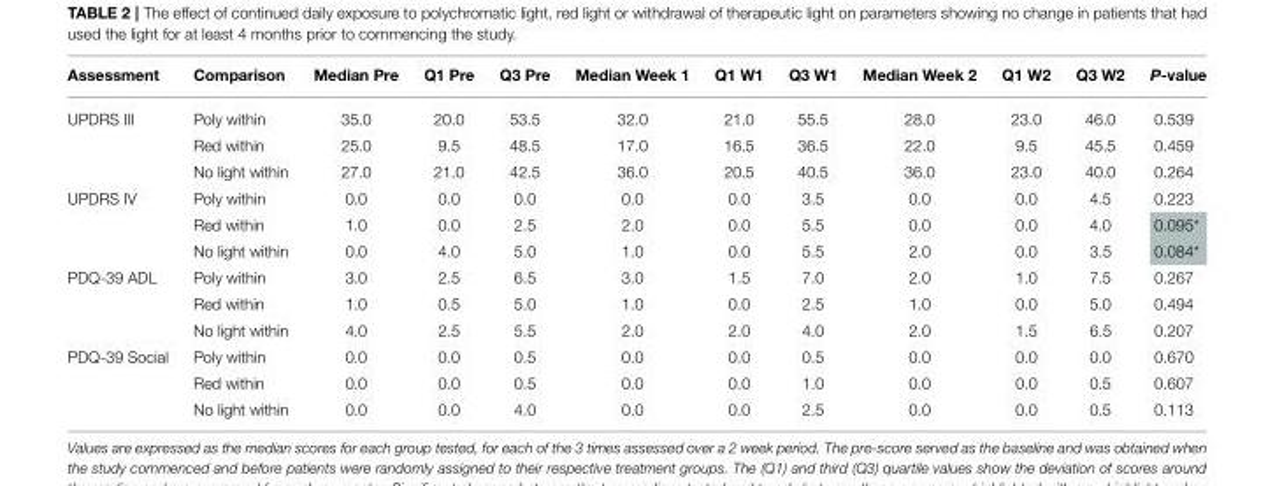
<table><thead><tr><td>Assessment</td><td>Comparison</td><td>Median Pre</td><td>Q1 Pre</td><td>Q3 Pre</td><td>Median Week 1</td><td>Q1 W1</td><td>Q3 W1</td><td>Median Week 2</td><td>Q1 W2</td><td>Q3 W2</td><td>P-value</td></tr></thead><tbody><tr><td rowspan="3">UPDRS III</td><td>Poly within</td><td>35.0</td><td>20.0</td><td>53.5</td><td>32.0</td><td>21.0</td><td>55.5</td><td>28.0</td><td>23.0</td><td>46.0</td><td>0.539</td></tr><tr><td>Red within</td><td>25.0</td><td>9.5</td><td>48.5</td><td>17.0</td><td>16.5</td><td>36.5</td><td>22.0</td><td>9.5</td><td>45.5</td><td>0.459</td></tr><tr><td>No light within</td><td>27.0</td><td>21.0</td><td>42.5</td><td>36.0</td><td>20.5</td><td>40.5</td><td>36.0</td><td>23.0</td><td>40.0</td><td>0.264</td></tr><tr><td rowspan="3">UPDRS IV</td><td>Poly within</td><td>0.0</td><td>0.0</td><td>0.0</td><td>0.0</td><td>0.0</td><td>3.5</td><td>0.0</td><td>0.0</td><td>4.5</td><td>0.223</td></tr><tr><td>Red within</td><td>1.0</td><td>0.0</td><td>2.5</td><td>2.0</td><td>0.0</td><td>5.5</td><td>0.0</td><td>0.0</td><td>4.0</td><td>0.095*</td></tr><tr><td>No light within</td><td>0.0</td><td>4.0</td><td>5.0</td><td>1.0</td><td>0.0</td><td>5.5</td><td>2.0</td><td>0.0</td><td>3.5</td><td>0.084*</td></tr><tr><td rowspan="3">PDQ-39 ADL</td><td>Poly within</td><td>3.0</td><td>2.5</td><td>6.5</td><td>3.0</td><td>1.5</td><td>7.0</td><td>2.0</td><td>1.0</td><td>7.5</td><td>0.267</td></tr><tr><td>Red within</td><td>1.0</td><td>0.5</td><td>5.0</td><td>1.0</td><td>0.0</td><td>2.5</td><td>1.0</td><td>0.0</td><td>5.0</td><td>0.494</td></tr><tr><td>No light within</td><td>4.0</td><td>2.5</td><td>5.5</td><td>2.0</td><td>2.0</td><td>4.0</td><td>2.0</td><td>1.5</td><td>6.5</td><td>0.207</td></tr><tr><td rowspan="3">PDQ-39 Social</td><td>Poly within</td><td>0.0</td><td>0.0</td><td>0.5</td><td>0.0</td><td>0.0</td><td>0.5</td><td>0.0</td><td>0.0</td><td>0.0</td><td>0.670</td></tr><tr><td>Red within</td><td>0.0</td><td>0.0</td><td>0.5</td><td>0.0</td><td>0.0</td><td>1.0</td><td>0.0</td><td>0.0</td><td>0.5</td><td>0.607</td></tr><tr><td>No light within</td><td>0.0</td><td>0.0</td><td>4.0</td><td>0.0</td><td>0.0</td><td>2.5</td><td>0.0</td><td>0.0</td><td>0.5</td><td>0.113</td></tr></tbody></table>